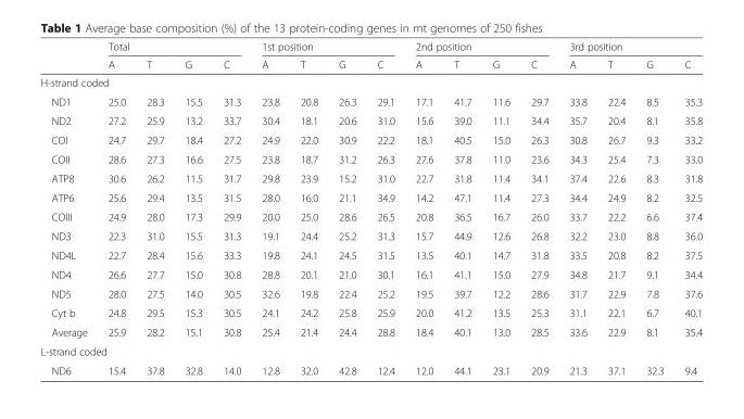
<table><thead><tr><td rowspan="2"></td><td colspan="4">Total</td><td colspan="4">1st position</td><td colspan="4">2nd position</td><td colspan="4">3rd position</td></tr><tr><td>A</td><td>T</td><td>G</td><td>C</td><td>A</td><td>T</td><td>G</td><td>C</td><td>A</td><td>T</td><td>G</td><td>C</td><td>A</td><td>T</td><td>G</td><td>C</td></tr></thead><tbody><tr><td colspan="17">H-strand coded</td></tr><tr><td>ND1</td><td>25.0</td><td>28.3</td><td>15.5</td><td>31.3</td><td>23.8</td><td>20.8</td><td>26.3</td><td>29.1</td><td>17.1</td><td>41.7</td><td>11.6</td><td>29.7</td><td>33.8</td><td>22.4</td><td>8.5</td><td>35.3</td></tr><tr><td>ND2</td><td>27.2</td><td>25.9</td><td>13.2</td><td>33.7</td><td>30.4</td><td>18.1</td><td>20.6</td><td>31.0</td><td>15.6</td><td>39.0</td><td>11.1</td><td>34.4</td><td>35.7</td><td>20.4</td><td>8.1</td><td>35.8</td></tr><tr><td>COI</td><td>24.7</td><td>29.7</td><td>18.4</td><td>27.2</td><td>24.9</td><td>22.0</td><td>30.9</td><td>22.2</td><td>18.1</td><td>40.5</td><td>15.0</td><td>26.3</td><td>30.8</td><td>26.7</td><td>9.3</td><td>33.2</td></tr><tr><td>COII</td><td>28.6</td><td>27.3</td><td>16.6</td><td>27.5</td><td>23.8</td><td>18.7</td><td>31.2</td><td>26.3</td><td>27.6</td><td>37.8</td><td>11.0</td><td>23.6</td><td>34.3</td><td>25.4</td><td>7.3</td><td>33.0</td></tr><tr><td>ATP8</td><td>30.6</td><td>26.2</td><td>11.5</td><td>31.7</td><td>29.8</td><td>23.9</td><td>15.2</td><td>31.0</td><td>22.7</td><td>31.8</td><td>11.4</td><td>34.1</td><td>37.4</td><td>22.6</td><td>8.3</td><td>31.8</td></tr><tr><td>ATP6</td><td>25.6</td><td>29.4</td><td>13.5</td><td>31.5</td><td>28.0</td><td>16.0</td><td>21.1</td><td>34.9</td><td>14.2</td><td>47.1</td><td>11.4</td><td>27.3</td><td>34.4</td><td>24.9</td><td>8.2</td><td>32.5</td></tr><tr><td>COIII</td><td>24.9</td><td>28.0</td><td>17.3</td><td>29.9</td><td>20.0</td><td>25.0</td><td>28.6</td><td>26.5</td><td>20.8</td><td>36.5</td><td>16.7</td><td>26.0</td><td>33.7</td><td>22.2</td><td>6.6</td><td>37.4</td></tr><tr><td>ND3</td><td>22.3</td><td>31.0</td><td>15.5</td><td>31.3</td><td>19.1</td><td>24.4</td><td>25.2</td><td>31.3</td><td>15.7</td><td>44.9</td><td>12.6</td><td>26.8</td><td>32.2</td><td>23.0</td><td>8.8</td><td>36.0</td></tr><tr><td>ND4L</td><td>22.7</td><td>28.4</td><td>15.6</td><td>33.3</td><td>19.8</td><td>24.1</td><td>24.5</td><td>31.5</td><td>13.5</td><td>40.1</td><td>14.7</td><td>31.8</td><td>33.5</td><td>20.8</td><td>8.2</td><td>37.5</td></tr><tr><td>ND4</td><td>26.6</td><td>27.7</td><td>15.0</td><td>30.8</td><td>28.8</td><td>20.1</td><td>21.0</td><td>30.1</td><td>16.1</td><td>41.1</td><td>15.0</td><td>27.9</td><td>34.8</td><td>21.7</td><td>9.1</td><td>34.4</td></tr><tr><td>ND5</td><td>28.0</td><td>27.5</td><td>14.0</td><td>30.5</td><td>32.6</td><td>19.8</td><td>22.4</td><td>25.2</td><td>19.5</td><td>39.7</td><td>12.2</td><td>28.6</td><td>31.7</td><td>22.9</td><td>7.8</td><td>37.6</td></tr><tr><td>Cyt b</td><td>24.8</td><td>29.5</td><td>15.3</td><td>30.5</td><td>24.1</td><td>24.2</td><td>25.8</td><td>25.9</td><td>20.0</td><td>41.2</td><td>13.5</td><td>25.3</td><td>31.1</td><td>22.1</td><td>6.7</td><td>40.1</td></tr><tr><td>Average</td><td>25.9</td><td>28.2</td><td>15.1</td><td>30.8</td><td>25.4</td><td>21.4</td><td>24.4</td><td>28.8</td><td>18.4</td><td>40.1</td><td>13.0</td><td>28.5</td><td>33.6</td><td>22.9</td><td>8.1</td><td>35.4</td></tr><tr><td colspan="17">L-strand coded</td></tr><tr><td>ND6</td><td>15.4</td><td>37.8</td><td>32.8</td><td>14.0</td><td>12.8</td><td>32.0</td><td>42.8</td><td>12.4</td><td>12.0</td><td>44.1</td><td>23.1</td><td>20.9</td><td>21.3</td><td>37.1</td><td>32.3</td><td>9.4</td></tr></tbody></table>